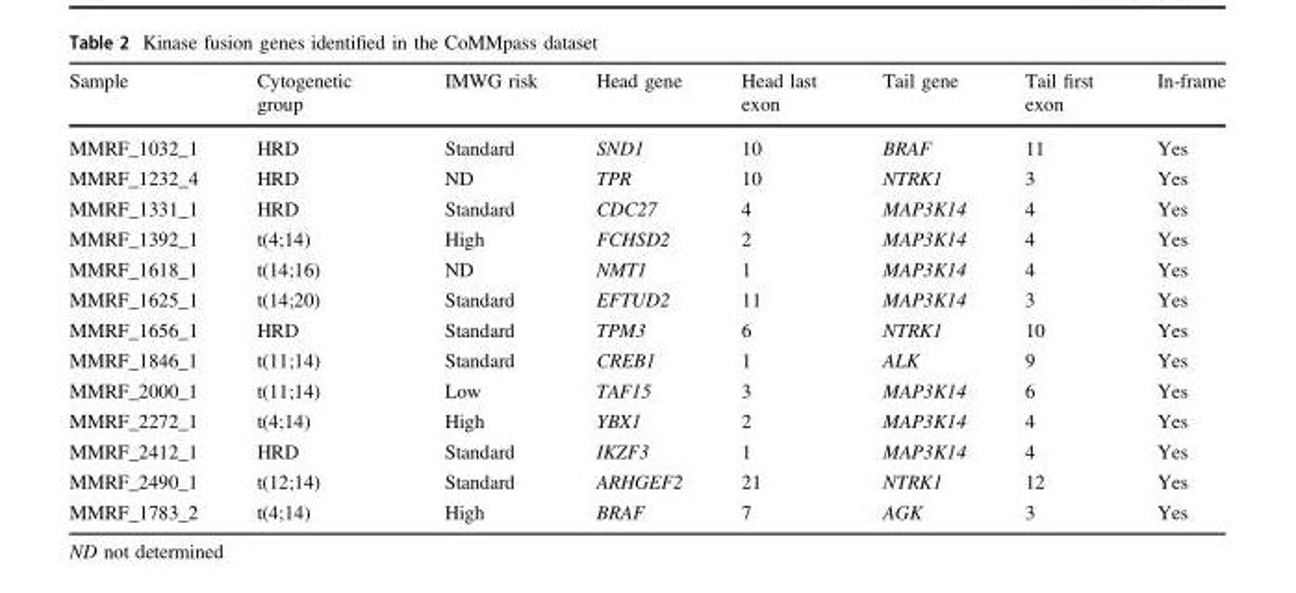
<table><thead><tr><td>Sample</td><td>Cytogenetic group</td><td>IMWG risk</td><td>Head gene</td><td>Head last exon</td><td>Tail gene</td><td>Tail first exon</td><td>In-frame</td></tr></thead><tbody><tr><td>MMRF_1032_1</td><td>HRD</td><td>Standard</td><td>SND1</td><td>10</td><td>BRAF</td><td>11</td><td>Yes</td></tr><tr><td>MMRF_1232_4</td><td>HRD</td><td>ND</td><td>TPR</td><td>10</td><td>NTRK1</td><td>3</td><td>Yes</td></tr><tr><td>MMRF_1331_1</td><td>HRD</td><td>Standard</td><td>CDC27</td><td>4</td><td>MAP3K14</td><td>4</td><td>Yes</td></tr><tr><td>MMRF_1392_1</td><td>t(4;14)</td><td>High</td><td>FCHSD2</td><td>2</td><td>MAP3K14</td><td>4</td><td>Yes</td></tr><tr><td>MMRF_1618_1</td><td>t(14;16)</td><td>ND</td><td>NMT1</td><td>1</td><td>MAP3K14</td><td>4</td><td>Yes</td></tr><tr><td>MMRF_1625_1</td><td>t(14;20)</td><td>Standard</td><td>EFTUD2</td><td>11</td><td>MAP3K14</td><td>3</td><td>Yes</td></tr><tr><td>MMRF_1656_1</td><td>HRD</td><td>Standard</td><td>TPM3</td><td>6</td><td>NTRK1</td><td>10</td><td>Yes</td></tr><tr><td>MMRF_1846_1</td><td>t(11;14)</td><td>Standard</td><td>CREB1</td><td>1</td><td>ALK</td><td>9</td><td>Yes</td></tr><tr><td>MMRF_2000_1</td><td>t(11;14)</td><td>Low</td><td>TAF15</td><td>3</td><td>MAP3K14</td><td>6</td><td>Yes</td></tr><tr><td>MMRF_2272_1</td><td>t(4;14)</td><td>High</td><td>YBX1</td><td>2</td><td>MAP3K14</td><td>4</td><td>Yes</td></tr><tr><td>MMRF_2412_1</td><td>HRD</td><td>Standard</td><td>IKZF3</td><td>1</td><td>MAP3K14</td><td>4</td><td>Yes</td></tr><tr><td>MMRF_2490_1</td><td>t(12;14)</td><td>Standard</td><td>ARHGEF2</td><td>21</td><td>NTRK1</td><td>12</td><td>Yes</td></tr><tr><td>MMRF_1783_2</td><td>t(4;14)</td><td>High</td><td>BRAF</td><td>7</td><td>AGK</td><td>3</td><td>Yes</td></tr></tbody></table>